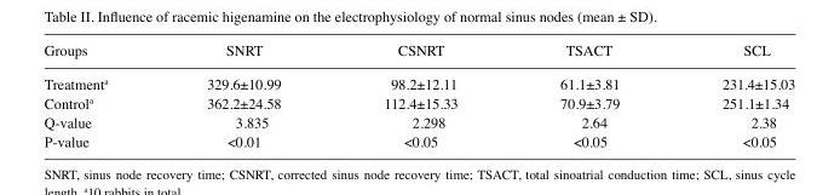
<table><thead><tr><td>Groups</td><td>SNRT</td><td>CSNRT</td><td>TSACT</td><td>SCL</td></tr></thead><tbody><tr><td>Treatment<sup>a</sup></td><td>329.6±10.99</td><td>98.2±12.11</td><td>61.1±3.81</td><td>231.4±15.03</td></tr><tr><td>Control<sup>a</sup></td><td>362.2±24.58</td><td>112.4±15.33</td><td>70.9±3.79</td><td>251.1±1.34</td></tr><tr><td>Q-value</td><td>3.835</td><td>2.298</td><td>2.64</td><td>2.38</td></tr><tr><td>P-value</td><td>&lt;0.01</td><td>&lt;0.05</td><td>&lt;0.05</td><td>&lt;0.05</td></tr></tbody></table>